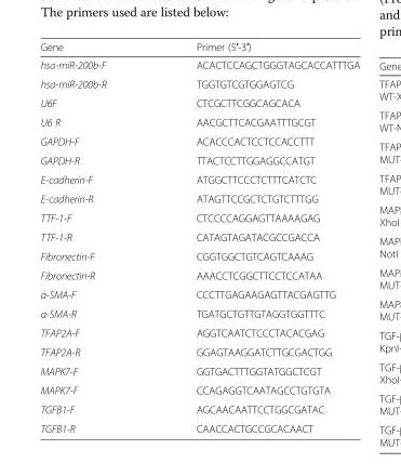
<table><thead><tr><td>Gene</td><td>Primer (5′-3′)</td></tr></thead><tbody><tr><td>hsa-miR-200b-F</td><td>ACACTCCAGCTGGGTAGCACCATTTGA</td></tr><tr><td>hsa-miR-200b-R</td><td>TGGTGTCGTGGAGTCG</td></tr><tr><td>U6F</td><td>CTCGCTTCGGCAGCACA</td></tr><tr><td>U6 R</td><td>AACGCTTCACGAATTTGCGT</td></tr><tr><td>GAPDH-F</td><td>ACACCCACTCCTCCACCTTT</td></tr><tr><td>GAPDH-R</td><td>TTACTCCTTGGAGGCCATGT</td></tr><tr><td>E-cadherin-F</td><td>ATGGCTTCCCTCTTTCATCTC</td></tr><tr><td>E-cadherin-R</td><td>ATAGTTCCGCTCTGTCTTTGG</td></tr><tr><td>TTF-1-F</td><td>CTCCCCAGGAGTTAAAAGAG</td></tr><tr><td>TTF-1-R</td><td>CATAGTAGATACGCCGACCA</td></tr><tr><td>Fibronectin-F</td><td>CGGTGGCTGTCAGTCAAAG</td></tr><tr><td>Fibronectin-R</td><td>AAACCTCGGCTTCCTCCATAA</td></tr><tr><td>α-SMA-F</td><td>CCCTTGAGAAGAGTTACGAGTTG</td></tr><tr><td>α-SMA-R</td><td>TGATGCTGTTGTAGGTGGTTTC</td></tr><tr><td>TFAP2A-F</td><td>AGGTCAATCTCCCTACACGAG</td></tr><tr><td>TFAP2A-R</td><td>GGAGTAAGGATCTTGCGACTGG</td></tr><tr><td>MAPK7-F</td><td>GGTGACTTTGGTATGGCTCGT</td></tr><tr><td>MAPK7-F</td><td>CCAGAGGTCAATAGCCTGTGTA</td></tr><tr><td>TGFB1-F</td><td>AGCAACAATTCCTGGCGATAC</td></tr><tr><td>TGFB1-R</td><td>CAACCACTGCCGCACAACT</td></tr></tbody></table>